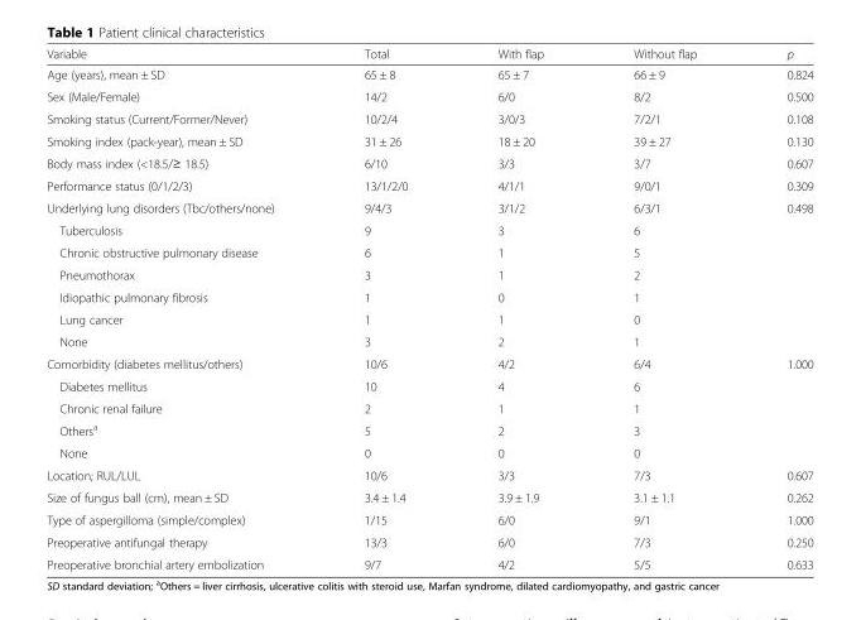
<table><thead><tr><td>Variable</td><td>Total</td><td>With flap</td><td>Without flap</td><td>p</td></tr></thead><tbody><tr><td>Age (years), mean ± SD</td><td>65 ± 8</td><td>65 ± 7</td><td>66 ± 9</td><td>0.824</td></tr><tr><td>Sex (Male/Female)</td><td>14/2</td><td>6/0</td><td>8/2</td><td>0.500</td></tr><tr><td>Smoking status (Current/Former/Never)</td><td>10/2/4</td><td>3/0/3</td><td>7/2/1</td><td>0.108</td></tr><tr><td>Smoking index (pack-year), mean ± SD</td><td>31 ± 26</td><td>18 ± 20</td><td>39 ± 27</td><td>0.130</td></tr><tr><td>Body mass index (&lt;18.5/≥ 18.5)</td><td>6/10</td><td>3/3</td><td>3/7</td><td>0.607</td></tr><tr><td>Performance status (0/1/2/3)</td><td>13/1/2/0</td><td>4/1/1</td><td>9/0/1</td><td>0.309</td></tr><tr><td>Underlying lung disorders (Tbc/others/none)</td><td>9/4/3</td><td>3/1/2</td><td>6/3/1</td><td>0.498</td></tr><tr><td>Tuberculosis</td><td>9</td><td>3</td><td>6</td><td></td></tr><tr><td>Chronic obstructive pulmonary disease</td><td>6</td><td>1</td><td>5</td><td></td></tr><tr><td>Pneumothorax</td><td>3</td><td>1</td><td>2</td><td></td></tr><tr><td>Idiopathic pulmonary fibrosis</td><td>1</td><td>0</td><td>1</td><td></td></tr><tr><td>Lung cancer</td><td>1</td><td>1</td><td>0</td><td></td></tr><tr><td>None</td><td>3</td><td>2</td><td>1</td><td></td></tr><tr><td>Comorbidity (diabetes mellitus/others)</td><td>10/6</td><td>4/2</td><td>6/4</td><td>1.000</td></tr><tr><td>Diabetes mellitus</td><td>10</td><td>4</td><td>6</td><td></td></tr><tr><td>Chronic renal failure</td><td>2</td><td>1</td><td>1</td><td></td></tr><tr><td>Others<sup>a</sup></td><td>5</td><td>2</td><td>3</td><td></td></tr><tr><td>None</td><td>0</td><td>0</td><td>0</td><td></td></tr><tr><td>Location; RUL/LUL</td><td>10/6</td><td>3/3</td><td>7/3</td><td>0.607</td></tr><tr><td>Size of fungus ball (cm), mean ± SD</td><td>3.4 ± 1.4</td><td>3.9 ± 1.9</td><td>3.1 ± 1.1</td><td>0.262</td></tr><tr><td>Type of aspergilloma (simple/complex)</td><td>1/15</td><td>6/0</td><td>9/1</td><td>1.000</td></tr><tr><td>Preoperative antifungal therapy</td><td>13/3</td><td>6/0</td><td>7/3</td><td>0.250</td></tr><tr><td>Preoperative bronchial artery embolization</td><td>9/7</td><td>4/2</td><td>5/5</td><td>0.633</td></tr></tbody></table>